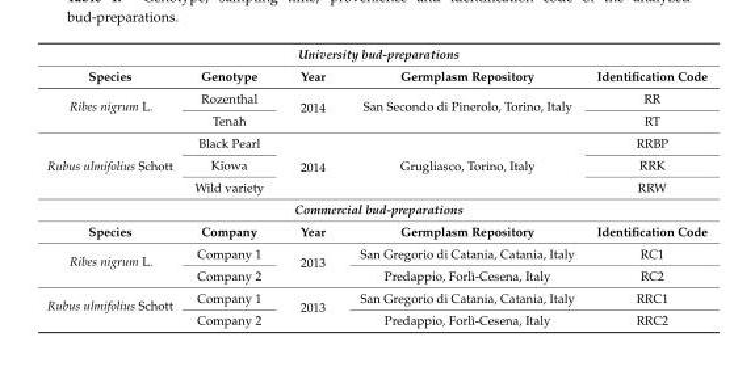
<table><thead><tr><td colspan="5">University bud-preparations</td></tr><tr><td>Species</td><td>Genotype</td><td>Year</td><td>Germplasm Repository</td><td>Identification Code</td></tr></thead><tbody><tr><td rowspan="2">Ribes nigrum L.</td><td>Rozenthal</td><td rowspan="2">2014</td><td rowspan="2">San Secondo di Pinerolo, Torino, Italy</td><td>RR</td></tr><tr><td>Tenah</td><td>RT</td></tr><tr><td rowspan="3">Rubus ulmifolius Schott</td><td>Black Pearl</td><td rowspan="3">2014</td><td rowspan="3">Grugliasco, Torino, Italy</td><td>RRBP</td></tr><tr><td>Kiowa</td><td>RRK</td></tr><tr><td>Wild variety</td><td>RRW</td></tr><tr><td colspan="5">Commercial bud-preparations</td></tr><tr><td>Species</td><td>Company</td><td>Year</td><td>Germplasm Repository</td><td>Identification Code</td></tr><tr><td rowspan="2">Ribes nigrum L.</td><td>Company 1</td><td rowspan="2">2013</td><td>San Gregorio di Catania, Catania, Italy</td><td>RC1</td></tr><tr><td>Company 2</td><td>Predappio, Forlì-Cesena, Italy</td><td>RC2</td></tr><tr><td rowspan="2">Rubus ulmifolius Schott</td><td>Company 1</td><td rowspan="2">2013</td><td>San Gregorio di Catania, Catania, Italy</td><td>RRC1</td></tr><tr><td>Company 2</td><td>Predappio, Forlì-Cesena, Italy</td><td>RRC2</td></tr></tbody></table>